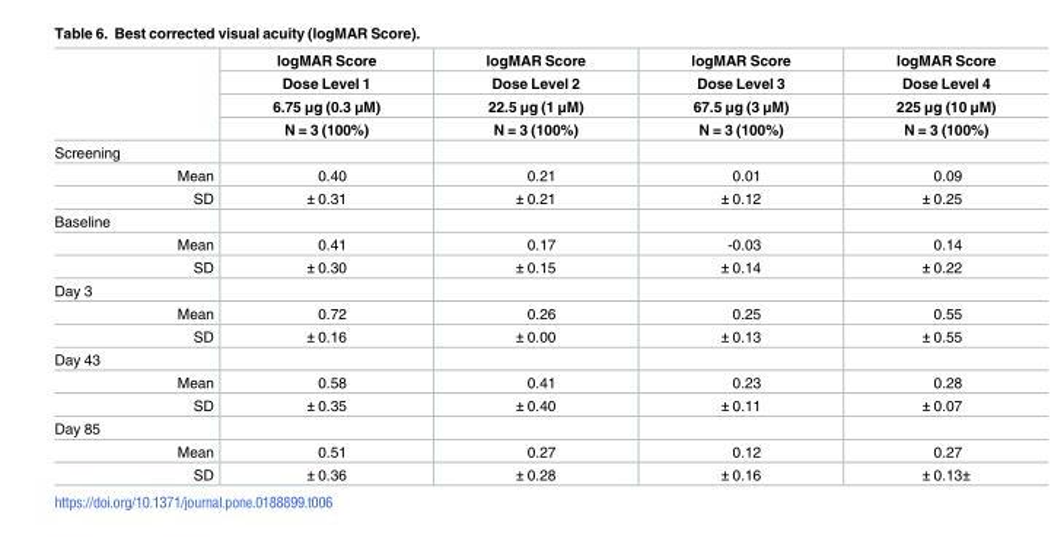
<table><thead><tr><td rowspan="4"></td><td rowspan="4">logMAR Score Dose Level 1 6.75 μg (0.3 μM) N = 3 (100%)</td><td rowspan="4">logMAR Score Dose Level 2 22.5 μg (1 μM) N = 3 (100%)</td><td rowspan="4">logMAR Score Dose Level 3 67.5 μg (3 μM) N = 3 (100%)</td><td rowspan="4">logMAR Score Dose Level 4 225 μg (10 μM) N = 3 (100%)</td></tr><tr></tr><tr></tr><tr></tr></thead><tbody><tr><td colspan="5">Screening</td></tr><tr><td>Mean</td><td>0.40</td><td>0.21</td><td>0.01</td><td>0.09</td></tr><tr><td>SD</td><td>± 0.31</td><td>± 0.21</td><td>± 0.12</td><td>± 0.25</td></tr><tr><td colspan="5">Baseline</td></tr><tr><td>Mean</td><td>0.41</td><td>0.17</td><td>-0.03</td><td>0.14</td></tr><tr><td>SD</td><td>± 0.30</td><td>± 0.15</td><td>± 0.14</td><td>± 0.22</td></tr><tr><td colspan="5">Day 3</td></tr><tr><td>Mean</td><td>0.72</td><td>0.26</td><td>0.25</td><td>0.55</td></tr><tr><td>SD</td><td>± 0.16</td><td>± 0.00</td><td>± 0.13</td><td>± 0.55</td></tr><tr><td colspan="5">Day 43</td></tr><tr><td>Mean</td><td>0.58</td><td>0.41</td><td>0.23</td><td>0.28</td></tr><tr><td>SD</td><td>± 0.35</td><td>± 0.40</td><td>± 0.11</td><td>± 0.07</td></tr><tr><td colspan="5">Day 85</td></tr><tr><td>Mean</td><td>0.51</td><td>0.27</td><td>0.12</td><td>0.27</td></tr><tr><td>SD</td><td>± 0.36</td><td>± 0.28</td><td>± 0.16</td><td>± 0.13±</td></tr></tbody></table>